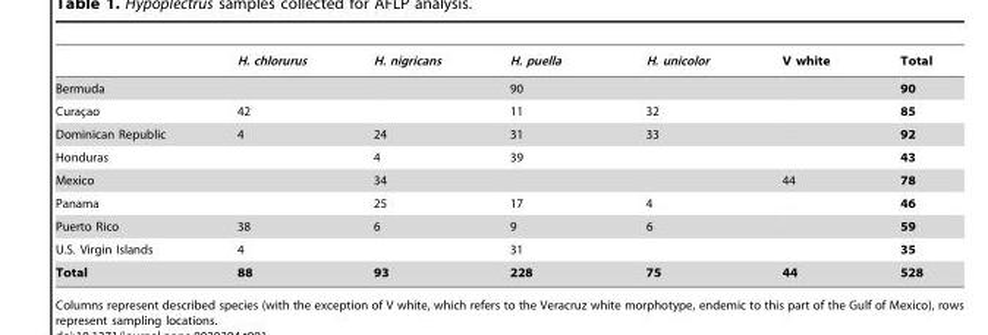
<table><thead><tr><td></td><td>H. chlorurus</td><td>H. nigricans</td><td>H. puella</td><td>H. unicolor</td><td>V white</td><td>Total</td></tr></thead><tbody><tr><td>Bermuda</td><td></td><td></td><td>90</td><td></td><td></td><td>90</td></tr><tr><td>Curac¸ao</td><td>42</td><td></td><td>11</td><td>32</td><td></td><td>85</td></tr><tr><td>Dominican Republic</td><td>4</td><td>24</td><td>31</td><td>33</td><td></td><td>92</td></tr><tr><td>Honduras</td><td></td><td>4</td><td>39</td><td></td><td></td><td>43</td></tr><tr><td>Mexico</td><td></td><td>34</td><td></td><td></td><td>44</td><td>78</td></tr><tr><td>Panama</td><td></td><td>25</td><td>17</td><td>4</td><td></td><td>46</td></tr><tr><td>Puerto Rico</td><td>38</td><td>6</td><td>9</td><td>6</td><td></td><td>59</td></tr><tr><td>U.S. Virgin Islands</td><td>4</td><td></td><td>31</td><td></td><td></td><td>35</td></tr><tr><td>Total</td><td>88</td><td>93</td><td>228</td><td>75</td><td>44</td><td>528</td></tr></tbody></table>